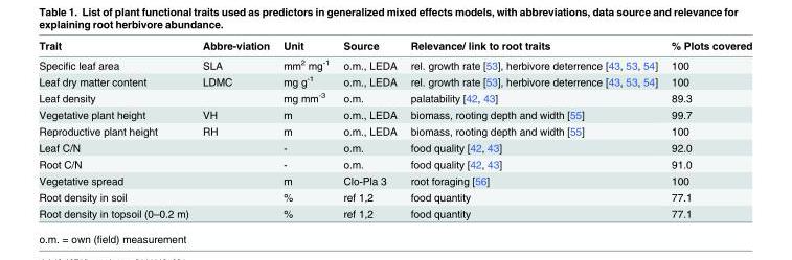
<table><thead><tr><td>Trait</td><td>Abbre-viation</td><td>Unit</td><td>Source</td><td>Relevance/ link to root traits</td><td>% Plots covered</td></tr></thead><tbody><tr><td>Specific leaf area</td><td>SLA</td><td>mm<sup>2</sup> mg<sup>-1</sup></td><td>o.m., LEDA</td><td>rel. growth rate [53], herbivore deterrence [43, 53, 54]</td><td>100</td></tr><tr><td>Leaf dry matter content</td><td>LDMC</td><td>mg g<sup>-1</sup></td><td>o.m., LEDA</td><td>rel. growth rate [53], herbivore deterrence [43, 53, 54]</td><td>100</td></tr><tr><td>Leaf density</td><td></td><td>mg mm<sup>-3</sup></td><td>o.m.</td><td>palatability [42, 43]</td><td>89.3</td></tr><tr><td>Vegetative plant height</td><td>VH</td><td>m</td><td>o.m., LEDA</td><td>biomass, rooting depth and width [55]</td><td>99.7</td></tr><tr><td>Reproductive plant height</td><td>RH</td><td>m</td><td>o.m., LEDA</td><td>biomass, rooting depth and width [55]</td><td>100</td></tr><tr><td>Leaf C/N</td><td></td><td>-</td><td>o.m.</td><td>food quality [42, 43]</td><td>92.0</td></tr><tr><td>Root C/N</td><td></td><td>-</td><td>o.m.</td><td>food quality [42, 43]</td><td>91.0</td></tr><tr><td>Vegetative spread</td><td></td><td>m</td><td>Clo-Pla 3</td><td>root foraging [56]</td><td>100</td></tr><tr><td>Root density in soil</td><td></td><td>%</td><td>ref 1,2</td><td>food quantity</td><td>77.1</td></tr><tr><td>Root density in topsoil (0–0.2 m)</td><td></td><td>%</td><td>ref 1,2</td><td>food quantity</td><td>77.1</td></tr></tbody></table>